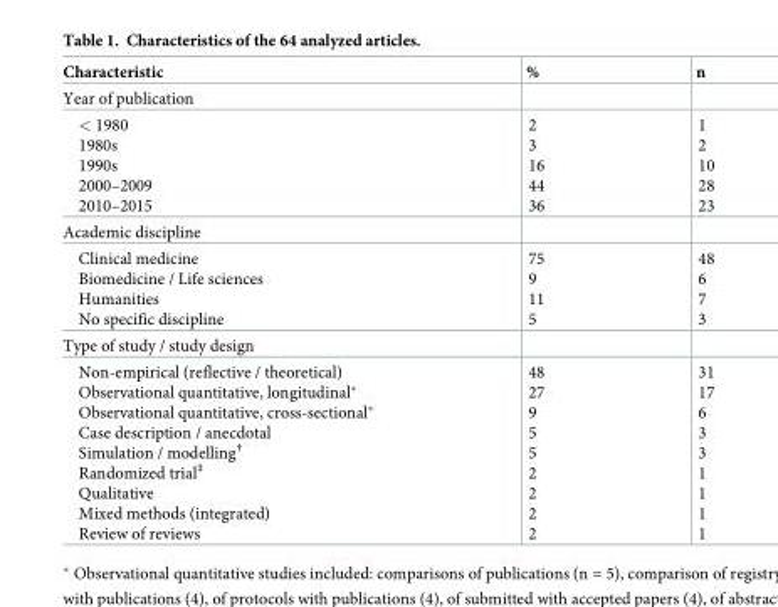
<table><thead><tr><td>Characteristic</td><td>%</td><td>n</td></tr></thead><tbody><tr><td colspan="3">Year of publication</td></tr><tr><td>&lt; 1980 1980s 1990s 2000–2009 2010–2015</td><td>2 3 16 44 36</td><td>1 2 10 28 23</td></tr><tr><td colspan="3">Academic discipline</td></tr><tr><td>Clinical medicine Biomedicine / Life sciences Humanities No specific discipline</td><td>75 9 11 5</td><td>48 6 7 3</td></tr><tr><td colspan="3">Type of study / study design</td></tr><tr><td>Non-empirical (reflective / theoretical) Observational quantitative, longitudinal* Observational quantitative, cross-sectional* Case description / anecdotal Simulation / modelling<sup>†</sup> Randomized trial<sup>‡</sup> Qualitative Mixed methods (integrated) Review of reviews</td><td>48 27 9 5 5 2 2 2 2</td><td>31 17 6 3 3 1 1 1 1</td></tr></tbody></table>